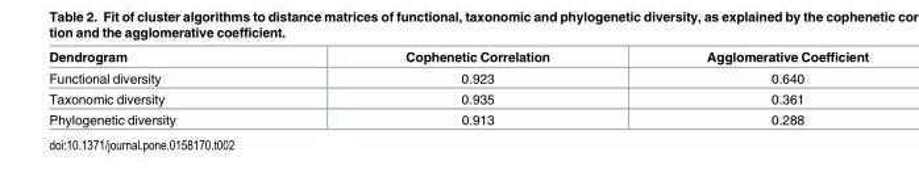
<table><thead><tr><td>Dendrogram</td><td>Cophenetic Correlation</td><td>Agglomerative Coefficient</td></tr></thead><tbody><tr><td>Functional diversity</td><td>0.923</td><td>0.640</td></tr><tr><td>Taxonomic diversity</td><td>0.935</td><td>0.361</td></tr><tr><td>Phylogenetic diversity</td><td>0.913</td><td>0.288</td></tr></tbody></table>